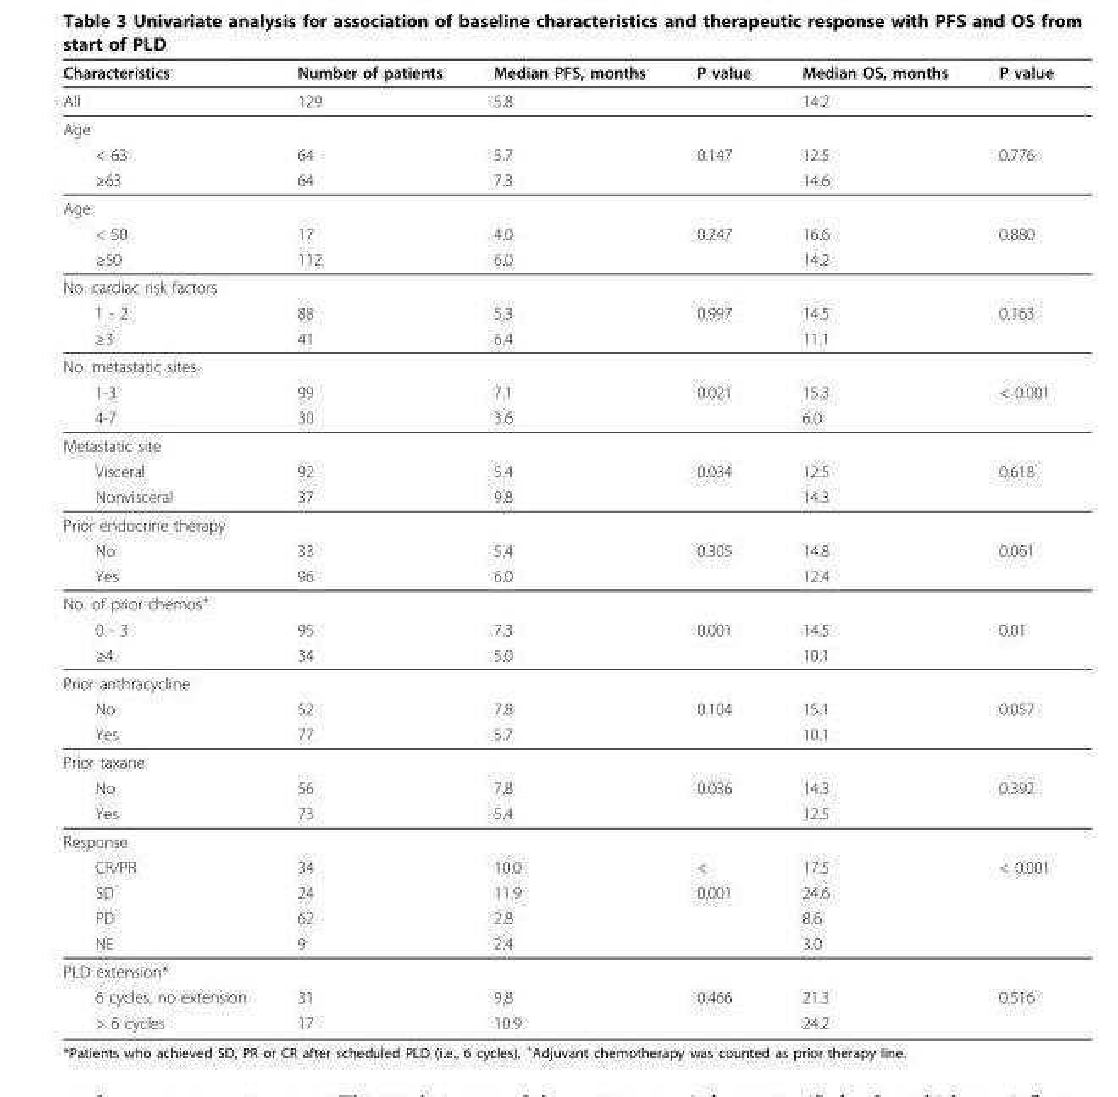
<table><thead><tr><td>Characteristics</td><td>Number of patients</td><td>Median PFS, months</td><td>P value</td><td>Median OS, months</td><td>P value</td></tr></thead><tbody><tr><td>All</td><td>129</td><td>5.8</td><td></td><td>14.2</td><td></td></tr><tr><td colspan="6">Age</td></tr><tr><td>&lt; 63</td><td>64</td><td>5.7</td><td>0.147</td><td>12.5</td><td>0.776</td></tr><tr><td>≥63</td><td>64</td><td>7.3</td><td></td><td>14.6</td><td></td></tr><tr><td colspan="6">Age</td></tr><tr><td>&lt; 50</td><td>17</td><td>4.0</td><td>0.247</td><td>16.6</td><td>0.880</td></tr><tr><td>≥50</td><td>112</td><td>6.0</td><td></td><td>14.2</td><td></td></tr><tr><td colspan="6">No. cardiac risk factors</td></tr><tr><td>1 - 2</td><td>88</td><td>5.3</td><td>0.997</td><td>14.5</td><td>0.163</td></tr><tr><td>≥3</td><td>41</td><td>6.4</td><td></td><td>11.1</td><td></td></tr><tr><td colspan="6">No. metastatic sites</td></tr><tr><td>1-3</td><td>99</td><td>7.1</td><td>0.021</td><td>15.3</td><td>&lt; 0.001</td></tr><tr><td>4-7</td><td>30</td><td>3.6</td><td></td><td>6.0</td><td></td></tr><tr><td colspan="6">Metastatic site</td></tr><tr><td>Visceral</td><td>92</td><td>5.4</td><td>0.034</td><td>12.5</td><td>0.618</td></tr><tr><td>Nonvisceral</td><td>37</td><td>9.8</td><td></td><td>14.3</td><td></td></tr><tr><td colspan="6">Prior endocrine therapy</td></tr><tr><td>No</td><td>33</td><td>5.4</td><td>0.305</td><td>14.8</td><td>0.061</td></tr><tr><td>Yes</td><td>96</td><td>6.0</td><td></td><td>12.4</td><td></td></tr><tr><td colspan="6">No. of prior chemos<sup>+</sup></td></tr><tr><td>0 - 3</td><td>95</td><td>7.3</td><td>0.001</td><td>14.5</td><td>0.01</td></tr><tr><td>≥4</td><td>34</td><td>5.0</td><td></td><td>10.1</td><td></td></tr><tr><td colspan="6">Prior anthracycline</td></tr><tr><td>No</td><td>52</td><td>7.8</td><td>0.104</td><td>15.1</td><td>0.057</td></tr><tr><td>Yes</td><td>77</td><td>5.7</td><td></td><td>10.1</td><td></td></tr><tr><td colspan="6">Prior taxane</td></tr><tr><td>No</td><td>56</td><td>7.8</td><td>0.036</td><td>14.3</td><td>0.392</td></tr><tr><td>Yes</td><td>73</td><td>5.4</td><td></td><td>12.5</td><td></td></tr><tr><td colspan="6">Response</td></tr><tr><td>CR/PR</td><td>34</td><td>10.0</td><td>&lt;</td><td>17.5</td><td>&lt; 0.001</td></tr><tr><td>SD</td><td>24</td><td>11.9</td><td>0.001</td><td>24.6</td><td></td></tr><tr><td>PD</td><td>62</td><td>2.8</td><td></td><td>8.6</td><td></td></tr><tr><td>NE</td><td>9</td><td>2.4</td><td></td><td>3.0</td><td></td></tr><tr><td colspan="6">PLD extension*</td></tr><tr><td>6 cycles, no extension</td><td>31</td><td>9.8</td><td>0.466</td><td>21.3</td><td>0.516</td></tr><tr><td>&gt; 6 cycles</td><td>17</td><td>10.9</td><td></td><td>24.2</td><td></td></tr></tbody></table>